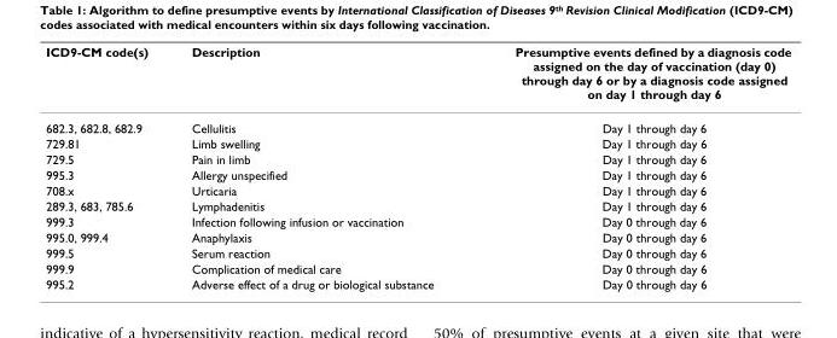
<table><thead><tr><td>ICD9-CM code(s)</td><td>Description</td><td>Presumptive events defined by a diagnosis code assigned on the day of vaccination (day 0) through day 6 or by a diagnosis code assigned on day 1 through day 6</td></tr></thead><tbody><tr><td>682.3, 682.8, 682.9</td><td>Cellulitis</td><td>Day 1 through day 6</td></tr><tr><td>729.81</td><td>Limb swelling</td><td>Day 1 through day 6</td></tr><tr><td>729.5</td><td>Pain in limb</td><td>Day 1 through day 6</td></tr><tr><td>995.3</td><td>Allergy unspecified</td><td>Day 1 through day 6</td></tr><tr><td>708.x</td><td>Urticaria</td><td>Day 1 through day 6</td></tr><tr><td>289.3, 683, 785.6</td><td>Lymphadenitis</td><td>Day 1 through day 6</td></tr><tr><td>999.3</td><td>Infection following infusion or vaccination</td><td>Day 0 through day 6</td></tr><tr><td>995.0, 999.4</td><td>Anaphylaxis</td><td>Day 0 through day 6</td></tr><tr><td>999.5</td><td>Serum reaction</td><td>Day 0 through day 6</td></tr><tr><td>999.9</td><td>Complication of medical care</td><td>Day 0 through day 6</td></tr><tr><td>995.2</td><td>Adverse effect of a drug or biological substance</td><td>Day 0 through day 6</td></tr></tbody></table>